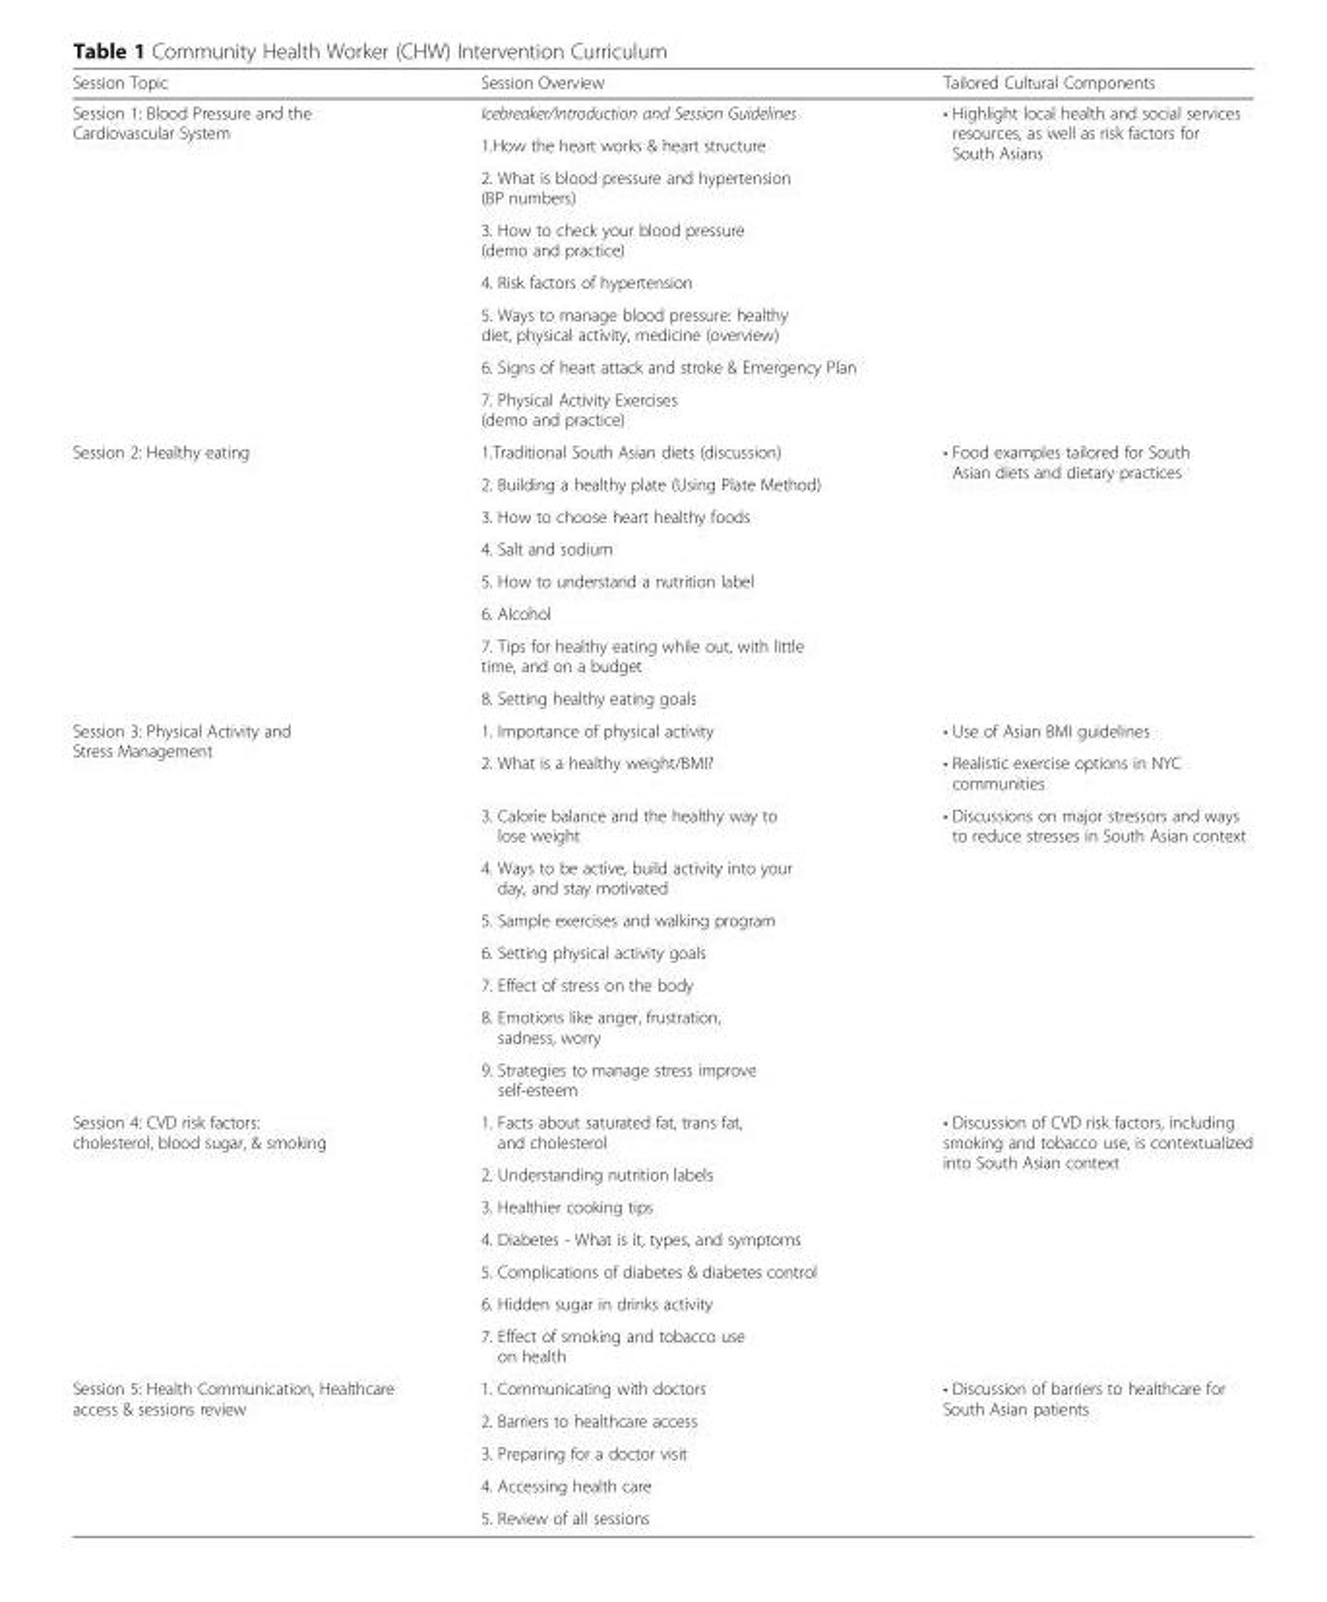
<table><thead><tr><td>Session Topic</td><td>Session Overview</td><td>Tailored Cultural Components</td></tr></thead><tbody><tr><td rowspan="8">Session 1: Blood Pressure and the Cardiovascular System</td><td>Icebreaker/Introduction and Session Guidelines</td><td rowspan="8">• Highlight local health and social services resources, as well as risk factors for South Asians</td></tr><tr><td>1.How the heart works &amp; heart structure</td></tr><tr><td>2. What is blood pressure and hypertension (BP numbers)</td></tr><tr><td>3. How to check your blood pressure (demo and practice)</td></tr><tr><td>4. Risk factors of hypertension</td></tr><tr><td>5. Ways to manage blood pressure: healthy diet, physical activity, medicine (overview)</td></tr><tr><td>6. Signs of heart attack and stroke &amp; Emergency Plan</td></tr><tr><td>7. Physical Activity Exercises (demo and practice)</td></tr><tr><td rowspan="8">Session 2: Healthy eating</td><td>1.Traditional South Asian diets (discussion)</td><td rowspan="8">• Food examples tailored for South Asian diets and dietary practices</td></tr><tr><td>2. Building a healthy plate (Using Plate Method)</td></tr><tr><td>3. How to choose heart healthy foods</td></tr><tr><td>4. Salt and sodium</td></tr><tr><td>5. How to understand a nutrition label</td></tr><tr><td>6. Alcohol</td></tr><tr><td>7. Tips for healthy eating while out, with little time, and on a budget</td></tr><tr><td>8. Setting healthy eating goals</td></tr><tr><td rowspan="9">Session 3: Physical Activity and Stress Management</td><td>1. Importance of physical activity</td><td>• Use of Asian BMI guidelines</td></tr><tr><td>2. What is a healthy weight/BMI?</td><td>• Realistic exercise options in NYC communities</td></tr><tr><td>3. Calorie balance and the healthy way to lose weight</td><td>• Discussions on major stressors and ways to reduce stresses in South Asian context</td></tr><tr><td>4. Ways to be active, build activity into your day, and stay motivated</td><td></td></tr><tr><td>5. Sample exercises and walking program</td><td></td></tr><tr><td>6. Setting physical activity goals</td><td></td></tr><tr><td>7. Effect of stress on the body</td><td></td></tr><tr><td>8. Emotions like anger, frustration, sadness, worry</td><td></td></tr><tr><td>9. Strategies to manage stress improve self-esteem</td><td></td></tr><tr><td rowspan="7">Session 4: CVD risk factors: cholesterol, blood sugar, &amp; smoking</td><td>1. Facts about saturated fat, trans fat, and cholesterol</td><td rowspan="7">• Discussion of CVD risk factors, including smoking and tobacco use, is contextualized into South Asian context</td></tr><tr><td>2. Understanding nutrition labels</td></tr><tr><td>3. Healthier cooking tips</td></tr><tr><td>4. Diabetes - What is it, types, and symptoms</td></tr><tr><td>5. Complications of diabetes &amp; diabetes control</td></tr><tr><td>6. Hidden sugar in drinks activity</td></tr><tr><td>7. Effect of smoking and tobacco use on health</td></tr><tr><td rowspan="5">Session 5: Health Communication, Healthcare access &amp; sessions review</td><td>1. Communicating with doctors</td><td rowspan="5">• Discussion of barriers to healthcare for South Asian patients</td></tr><tr><td>2. Barriers to healthcare access</td></tr><tr><td>3. Preparing for a doctor visit</td></tr><tr><td>4. Accessing health care</td></tr><tr><td>5. Review of all sessions</td></tr></tbody></table>